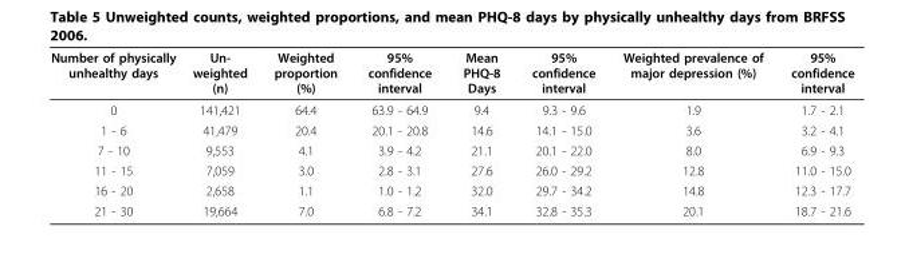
<table><thead><tr><td>Number of physically unhealthy days</td><td>Un- weighted (n)</td><td>Weighted proportion (%)</td><td>95% confidence interval</td><td>Mean PHQ-8 Days</td><td>95% confidence interval</td><td>Weighted prevalence of major depression (%)</td><td>95% confidence interval</td></tr></thead><tbody><tr><td>0</td><td>141,421</td><td>64.4</td><td>63.9 - 64.9</td><td>9.4</td><td>9.3 - 9.6</td><td>1.9</td><td>1.7 - 2.1</td></tr><tr><td>1 - 6</td><td>41,479</td><td>20.4</td><td>20.1 - 20.8</td><td>14.6</td><td>14.1 - 15.0</td><td>3.6</td><td>3.2 - 4.1</td></tr><tr><td>7 - 10</td><td>9,553</td><td>4.1</td><td>3.9 - 4.2</td><td>21.1</td><td>20.1 - 22.0</td><td>8.0</td><td>6.9 - 9.3</td></tr><tr><td>11 - 15</td><td>7,059</td><td>3.0</td><td>2.8 - 3.1</td><td>27.6</td><td>26.0 - 29.2</td><td>12.8</td><td>11.0 - 15.0</td></tr><tr><td>16 - 20</td><td>2,658</td><td>1.1</td><td>1.0 - 1.2</td><td>32.0</td><td>29.7 - 34.2</td><td>14.8</td><td>12.3 - 17.7</td></tr><tr><td>21 - 30</td><td>19,664</td><td>7.0</td><td>6.8 - 7.2</td><td>34.1</td><td>32.8 - 35.3</td><td>20.1</td><td>18.7 - 21.6</td></tr></tbody></table>